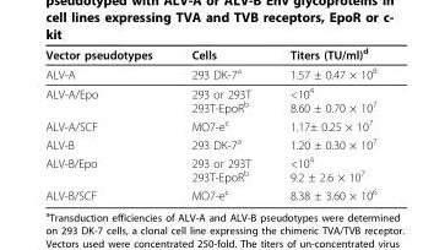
<table><thead><tr><td>Vector pseudotypes</td><td>Cells</td><td>Titers (TU/ml)<sup>d</sup></td></tr></thead><tbody><tr><td>ALV-A</td><td>293 DK-7<sup>a</sup></td><td>1.57 ± 0.47 × 10<sup>8</sup></td></tr><tr><td>ALV-A/Epo</td><td>293 or 293T 293T-EpoR<sup>b</sup></td><td>&lt;10<sup>4</sup> 8.60 ± 0.70 × 10<sup>7</sup></td></tr><tr><td>ALV-A/SCF</td><td>MO7-e<sup>c</sup></td><td>1.17± 0.25 × 10<sup>7</sup></td></tr><tr><td>ALV-B</td><td>293 DK-7<sup>a</sup></td><td>1.20 ± 0.30 × 10<sup>7</sup></td></tr><tr><td>ALV-B/Epo</td><td>293 or 293T 293T-EpoR<sup>b</sup></td><td>&lt;10<sup>4</sup> 9.2 ± 2.6 × 10<sup>7</sup></td></tr><tr><td>ALV-B/SCF</td><td>MO7-e<sup>c</sup></td><td>8.38 ± 3.60 × 10<sup>6</sup></td></tr></tbody></table>